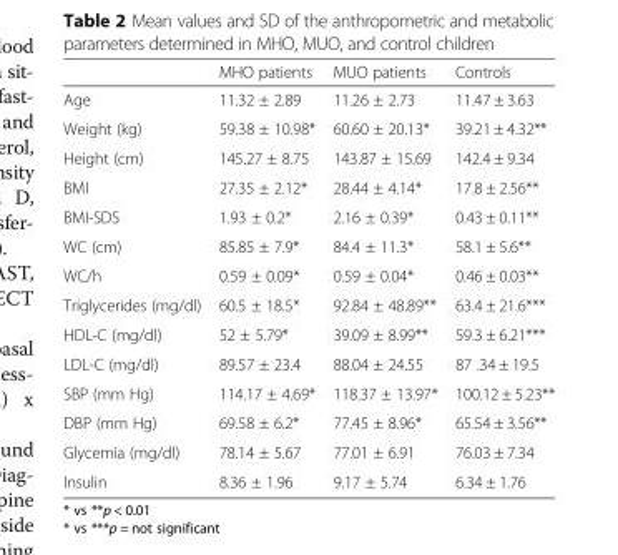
<table><thead><tr><td></td><td>MHO patients</td><td>MUO patients</td><td>Controls</td></tr></thead><tbody><tr><td>Age</td><td>11.32 ± 2.89</td><td>11.26 ± 2.73</td><td>11.47 ± 3.63</td></tr><tr><td>Weight (kg)</td><td>59.38 ± 10.98*</td><td>60.60 ± 20.13*</td><td>39.21 ± 4.32**</td></tr><tr><td>Height (cm)</td><td>145.27 ± 8.75</td><td>143.87 ± 15.69</td><td>142.4 ± 9.34</td></tr><tr><td>BMI</td><td>27.35 ± 2.12*</td><td>28.44 ± 4.14*</td><td>17.8 ± 2.56**</td></tr><tr><td>BMI-SDS</td><td>1.93 ± 0.2*</td><td>2.16 ± 0.39*</td><td>0.43 ± 0.11**</td></tr><tr><td>WC (cm)</td><td>85.85 ± 7.9*</td><td>84.4 ± 11.3*</td><td>58.1 ± 5.6**</td></tr><tr><td>WC/h</td><td>0.59 ± 0.09*</td><td>0.59 ± 0.04*</td><td>0.46 ± 0.03**</td></tr><tr><td>Triglycerides (mg/dl)</td><td>60.5 ± 18.5*</td><td>92.84 ± 48.89**</td><td>63.4 ± 21.6***</td></tr><tr><td>HDL-C (mg/dl)</td><td>52 ± 5.79*</td><td>39.09 ± 8.99**</td><td>59.3 ± 6.21***</td></tr><tr><td>LDL-C (mg/dl)</td><td>89.57 ± 23.4</td><td>88.04 ± 24.55</td><td>87 .34 ± 19.5</td></tr><tr><td>SBP (mm Hg)</td><td>114.17 ± 4.69*</td><td>118.37 ± 13.97*</td><td>100.12 ± 5.23**</td></tr><tr><td>DBP (mm Hg)</td><td>69.58 ± 6.2*</td><td>77.45 ± 8.96*</td><td>65.54 ± 3.56**</td></tr><tr><td>Glycemia (mg/dl)</td><td>78.14 ± 5.67</td><td>77.01 ± 6.91</td><td>76.03 ± 7.34</td></tr><tr><td>Insulin</td><td>8.36 ± 1.96</td><td>9.17 ± 5.74</td><td>6.34 ± 1.76</td></tr></tbody></table>